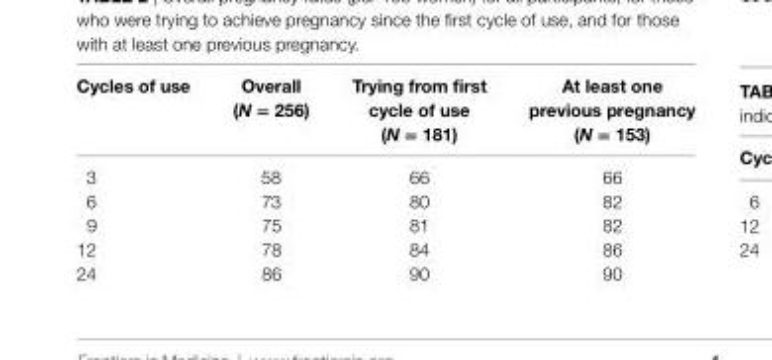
<table><thead><tr><td>cycles of use</td><td>Overall (N = 256)</td><td>Trying from first cycle of use (N = 181)</td><td>at least one previous pregnancy (N = 153)</td></tr></thead><tbody><tr><td>3</td><td>58</td><td>66</td><td>66</td></tr><tr><td>6</td><td>73</td><td>80</td><td>82</td></tr><tr><td>9</td><td>75</td><td>81</td><td>82</td></tr><tr><td>12</td><td>78</td><td>84</td><td>86</td></tr><tr><td>24</td><td>86</td><td>90</td><td>90</td></tr></tbody></table>